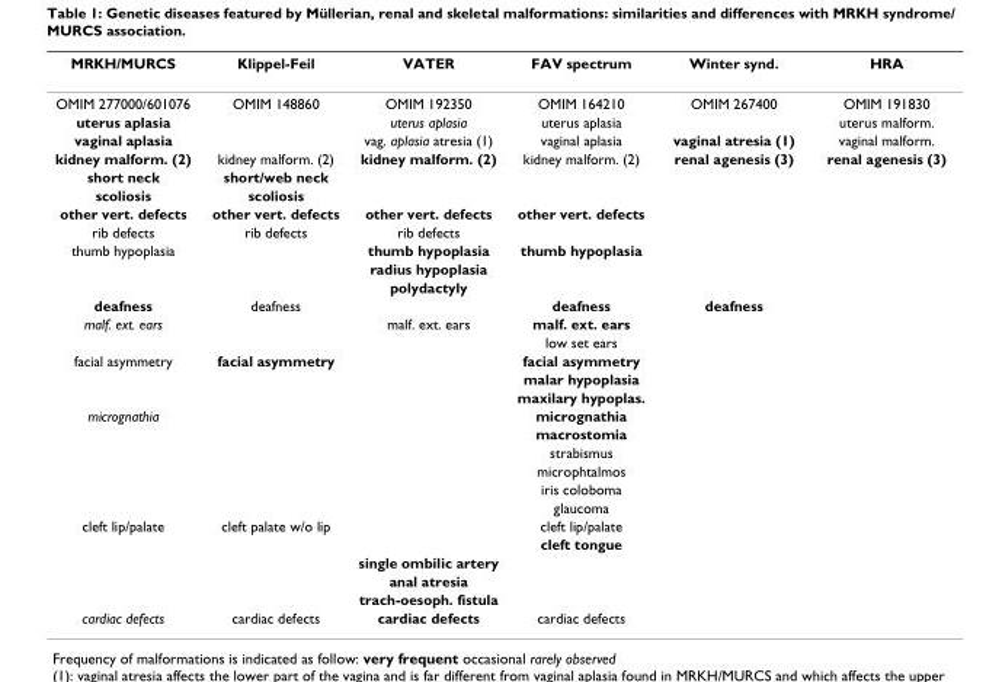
<table><thead><tr><td>MRKH/MURCS</td><td>Klippel-Feil</td><td>VATER</td><td>FAV spectrum</td><td>Winter synd.</td><td>HRA</td></tr></thead><tbody><tr><td>OMIM 277000/601076</td><td>OMIM 148860</td><td>OMIM 192350</td><td>OMIM 164210</td><td>OMIM 267400</td><td>OMIM 191830</td></tr><tr><td>uterus aplasia</td><td></td><td>uterus aplasia</td><td>uterus aplasia</td><td></td><td>uterus malform.</td></tr><tr><td>vaginal aplasia</td><td></td><td>vag. aplasia atresia (1)</td><td>vaginal aplasia</td><td>vaginal atresia (1)</td><td>vaginal malform.</td></tr><tr><td>kidney malform. (2)</td><td>kidney malform. (2)</td><td>kidney malform. (2)</td><td>kidney malform. (2)</td><td>renal agenesis (3)</td><td>renal agenesis (3)</td></tr><tr><td>short neck</td><td>short/web neck</td><td></td><td></td><td></td><td></td></tr><tr><td>scoliosis</td><td>scoliosis</td><td></td><td></td><td></td><td></td></tr><tr><td>other vert. defects</td><td>other vert. defects</td><td>other vert. defects</td><td>other vert. defects</td><td></td><td></td></tr><tr><td>rib defects</td><td>rib defects</td><td>rib defects</td><td></td><td></td><td></td></tr><tr><td rowspan="3">thumb hypoplasia</td><td></td><td>thumb hypoplasia</td><td>thumb hypoplasia</td><td></td><td></td></tr><tr><td></td><td>radius hypoplasia</td><td></td><td></td><td></td></tr><tr><td></td><td>polydactyly</td><td></td><td></td><td></td></tr><tr><td>deafness</td><td>deafness</td><td></td><td>deafness</td><td>deafness</td><td></td></tr><tr><td rowspan="2">malf. ext. ears</td><td></td><td>malf. ext. ears</td><td>malf. ext. ears</td><td></td><td></td></tr><tr><td></td><td></td><td>low set ears</td><td></td><td></td></tr><tr><td rowspan="3">facial asymmetry</td><td>facial asymmetry</td><td></td><td>facial asymmetry</td><td></td><td></td></tr><tr><td></td><td></td><td>malar hypoplasia</td><td></td><td></td></tr><tr><td></td><td></td><td>maxilary hypoplas.</td><td></td><td></td></tr><tr><td rowspan="6">micrognathia</td><td></td><td></td><td>micrognathia</td><td></td><td></td></tr><tr><td></td><td></td><td>macrostomia</td><td></td><td></td></tr><tr><td></td><td></td><td>strabismus</td><td></td><td></td></tr><tr><td></td><td></td><td>microphtalmos</td><td></td><td></td></tr><tr><td></td><td></td><td>iris coloboma</td><td></td><td></td></tr><tr><td></td><td></td><td>glaucoma</td><td></td><td></td></tr><tr><td rowspan="5">cleft lip/palate</td><td>cleft palate w/o lip</td><td></td><td>cleft lip/palate</td><td></td><td></td></tr><tr><td></td><td></td><td>cleft tongue</td><td></td><td></td></tr><tr><td></td><td>single ombilic artery</td><td></td><td></td><td></td></tr><tr><td></td><td>anal atresia</td><td></td><td></td><td></td></tr><tr><td></td><td>trach-oesoph. fistula</td><td></td><td></td><td></td></tr><tr><td>cardiac defects</td><td>cardiac defects</td><td>cardiac defects</td><td>cardiac defects</td><td></td><td></td></tr></tbody></table>